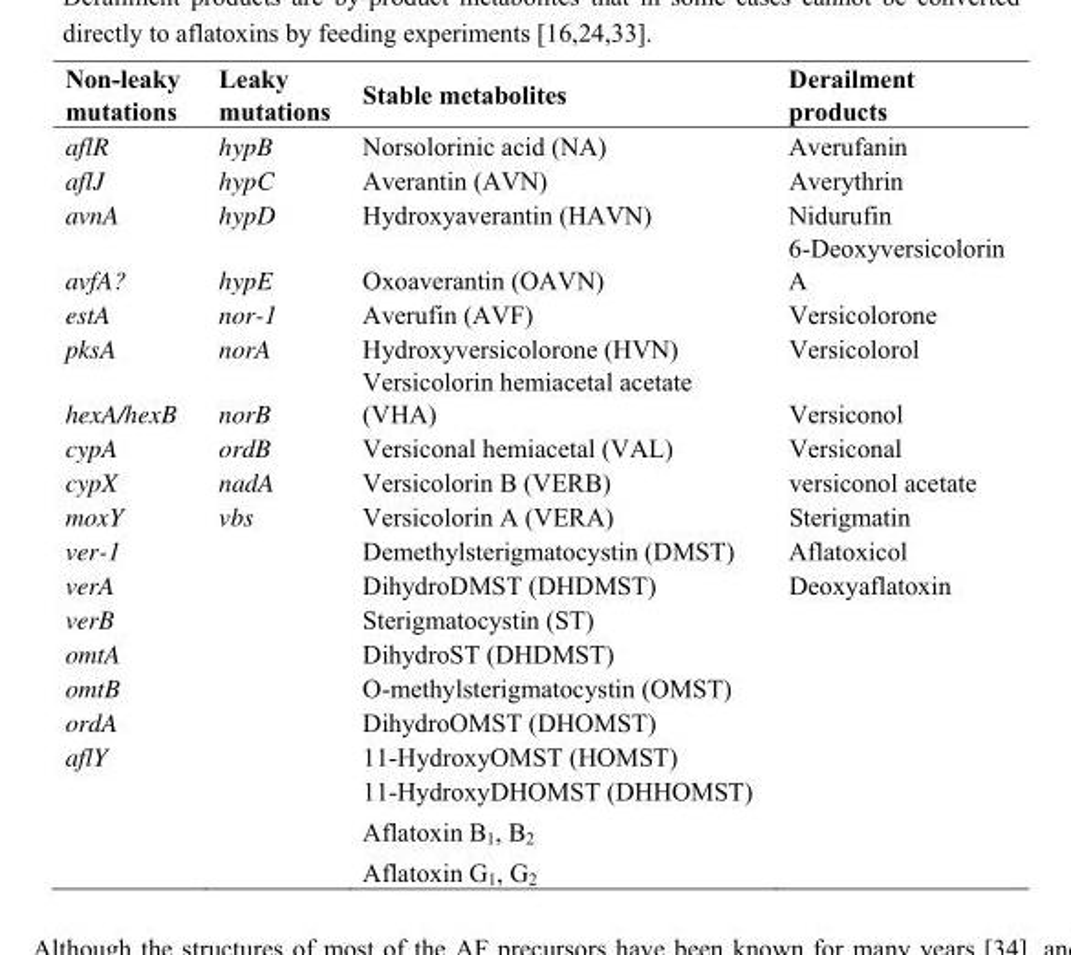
<table><thead><tr><td>Non-leaky mutations</td><td>Leaky mutations</td><td>Stable metabolites</td><td>Derailment products</td></tr></thead><tbody><tr><td>aflR</td><td>hypB</td><td>Norsolorinic acid (NA)</td><td>Averufanin</td></tr><tr><td>aflJ</td><td>hypC</td><td>Averantin (AVN)</td><td>Averythrin</td></tr><tr><td>avnA</td><td>hypD</td><td>Hydroxyaverantin (HAVN)</td><td>Nidurufin</td></tr><tr><td>avfA?</td><td>hypE</td><td>Oxoaverantin (OAVN)</td><td>6-Deoxyversicolorin A</td></tr><tr><td>estA</td><td>nor-1</td><td>Averufin (AVF)</td><td>Versicolorone</td></tr><tr><td>pksA</td><td>norA</td><td>Hydroxyversicolorone (HVN)</td><td>Versicolorol</td></tr><tr><td>hexA/hexB</td><td>norB</td><td>Versicolorin hemiacetal acetate (VHA)</td><td>Versiconol</td></tr><tr><td>cypA</td><td>ordB</td><td>Versiconal hemiacetal (VAL)</td><td>Versiconal</td></tr><tr><td>cypX</td><td>nadA</td><td>Versicolorin B (VERB)</td><td>versiconol acetate</td></tr><tr><td>moxY</td><td>vbs</td><td>Versicolorin A (VERA)</td><td>Sterigmatin</td></tr><tr><td>ver-1</td><td></td><td>Demethylsterigmatocystin (DMST)</td><td>Aflatoxicol</td></tr><tr><td>verA</td><td></td><td>DihydroDMST (DHDMST)</td><td>Deoxyaflatoxin</td></tr><tr><td>verB</td><td></td><td>Sterigmatocystin (ST)</td><td></td></tr><tr><td>omtA</td><td></td><td>DihydroST (DHDMST)</td><td></td></tr><tr><td>omtB</td><td></td><td>O-methylsterigmatocystin (OMST)</td><td></td></tr><tr><td>ordA</td><td></td><td>DihydroOMST (DHOMST)</td><td></td></tr><tr><td rowspan="4">aflY</td><td></td><td>11-HydroxyOMST (HOMST)</td><td></td></tr><tr><td></td><td>11-HydroxyDHOMST (DHHOMST)</td><td></td></tr><tr><td></td><td>Aflatoxin B<sub>1</sub>, B<sub>2</sub></td><td></td></tr><tr><td></td><td>Aflatoxin G<sub>1</sub>, G<sub>2</sub></td><td></td></tr></tbody></table>